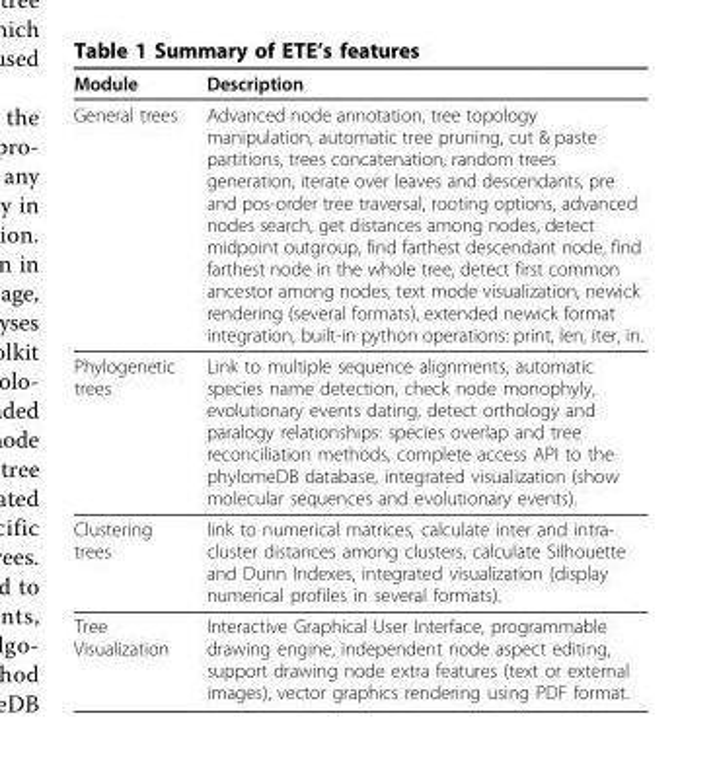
<table><thead><tr><td>Module</td><td>Description</td></tr></thead><tbody><tr><td>General trees</td><td>Advanced node annotation, tree topology manipulation, automatic tree pruning, cut &amp; paste partitions, trees concatenation, random trees generation, iterate over leaves and descendants, pre and pos-order tree traversal, rooting options, advanced nodes search, get distances among nodes, detect midpoint outgroup, find farthest descendant node, find farthest node in the whole tree, detect first common ancestor among nodes, text mode visualization, newick rendering (several formats), extended newick format integration, built-in python operations: print, len, iter, in.</td></tr><tr><td>Phylogenetic trees</td><td>Link to multiple sequence alignments, automatic species name detection, check node monophyly, evolutionary events dating, detect orthology and paralogy relationships: species overlap and tree reconciliation methods, complete access API to the phylomeDB database, integrated visualization (show molecular sequences and evolutionary events).</td></tr><tr><td>Clustering trees</td><td>link to numerical matrices, calculate inter and intra- cluster distances among clusters, calculate Silhouette and Dunn Indexes, integrated visualization (display numerical profiles in several formats).</td></tr><tr><td>Tree Visualization</td><td>Interactive Graphical User Interface, programmable drawing engine, independent node aspect editing, support drawing node extra features (text or external images), vector graphics rendering using PDF format.</td></tr></tbody></table>